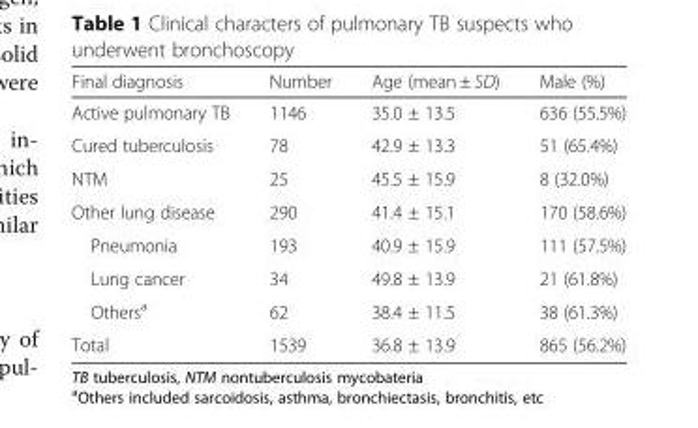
<table><thead><tr><td>Final diagnosis</td><td>Number</td><td>Age (mean ± SD)</td><td>Male (%)</td></tr></thead><tbody><tr><td>Active pulmonary TB</td><td>1146</td><td>35.0 ± 13.5</td><td>636 (55.5%)</td></tr><tr><td>Cured tuberculosis</td><td>78</td><td>42.9 ± 13.3</td><td>51 (65.4%)</td></tr><tr><td>NTM</td><td>25</td><td>45.5 ± 15.9</td><td>8 (32.0%)</td></tr><tr><td>Other lung disease</td><td>290</td><td>41.4 ± 15.1</td><td>170 (58.6%)</td></tr><tr><td>Pneumonia</td><td>193</td><td>40.9 ± 15.9</td><td>111 (57.5%)</td></tr><tr><td>Lung cancer</td><td>34</td><td>49.8 ± 13.9</td><td>21 (61.8%)</td></tr><tr><td>Others<sup>a</sup></td><td>62</td><td>38.4 ± 11.5</td><td>38 (61.3%)</td></tr><tr><td>Total</td><td>1539</td><td>36.8 ± 13.9</td><td>865 (56.2%)</td></tr></tbody></table>